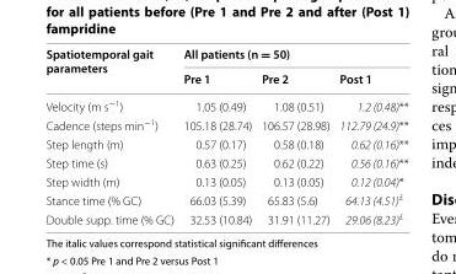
<table><thead><tr><td rowspan="2">Spatiotemporal gait parameters</td><td colspan="3">All patients (n = 50)</td></tr><tr><td>Pre 1</td><td>Pre 2</td><td>Post 1</td></tr></thead><tbody><tr><td>Velocity (m s<sup>−1</sup>)</td><td>1.05 (0.49)</td><td>1.08 (0.51)</td><td>1.2 (0.48)**</td></tr><tr><td>Cadence (steps min<sup>−1</sup>)</td><td>105.18 (28.74)</td><td>106.57 (28.98)</td><td>112.79 (24.9)**</td></tr><tr><td>Step length (m)</td><td>0.57 (0.17)</td><td>0.58 (0.18)</td><td>0.62 (0.16)**</td></tr><tr><td>Step time (s)</td><td>0.63 (0.25)</td><td>0.62 (0.22)</td><td>0.56 (0.16)**</td></tr><tr><td>Step width (m)</td><td>0.13 (0.05)</td><td>0.13 (0.05)</td><td>0.12 (0.04)*</td></tr><tr><td>Stance time (% GC)</td><td>66.03 (5.39)</td><td>65.83 (5.6)</td><td>64.13 (4.51)<sup>£</sup></td></tr><tr><td>Double supp. time (% GC)</td><td>32.53 (10.84)</td><td>31.91 (11.27)</td><td>29.06 (8.23)<sup>£</sup></td></tr></tbody></table>